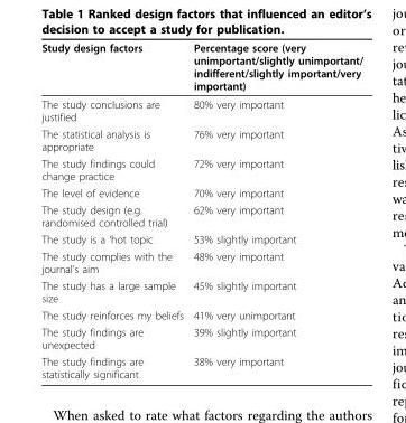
<table><thead><tr><td>Study design factors</td><td>Percentage score (very unimportant/slightly unimportant/ indifferent/slightly important/very important)</td></tr></thead><tbody><tr><td>The study conclusions are justified</td><td>80% very important</td></tr><tr><td>The statistical analysis is appropriate</td><td>76% very important</td></tr><tr><td>The study findings could change practice</td><td>72% very important</td></tr><tr><td>The level of evidence</td><td>70% very important</td></tr><tr><td>The study design (e.g. randomised controlled trial)</td><td>62% very important</td></tr><tr><td>The study is a ‘hot topic</td><td>53% slightly important</td></tr><tr><td>The study complies with the journal’s aim</td><td>48% very important</td></tr><tr><td>The study has a large sample size</td><td>45% slightly important</td></tr><tr><td>The study reinforces my beliefs</td><td>41% very unimportant</td></tr><tr><td>The study findings are unexpected</td><td>39% slightly important</td></tr><tr><td>The study findings are statistically significant</td><td>38% very important</td></tr></tbody></table>